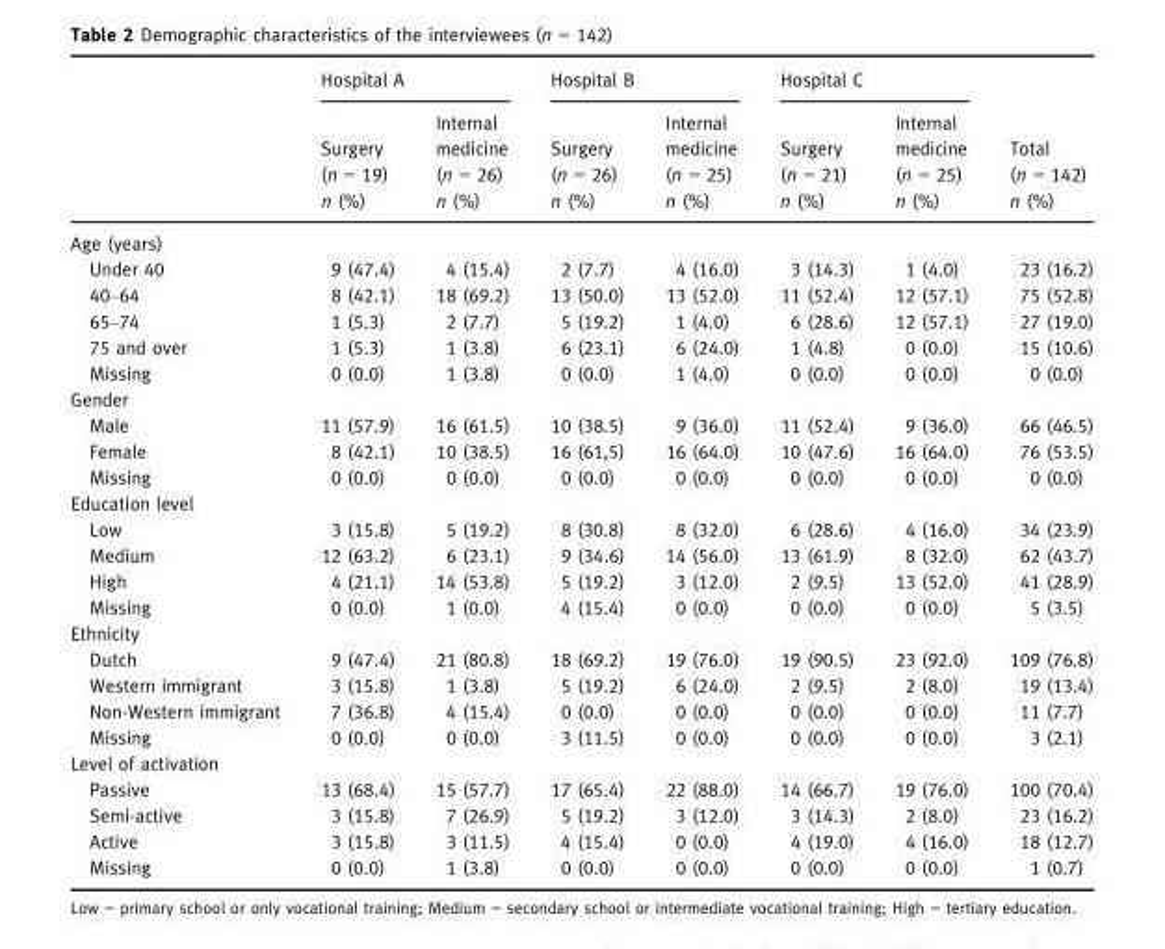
<table><thead><tr><td rowspan="3"></td><td colspan="2">Hospital A</td><td colspan="2">Hospital B</td><td colspan="2">Hospital C</td><td rowspan="3">Total (n = 142) n (%)</td></tr><tr><td rowspan="2">Surgery (n = 19) n (%)</td><td rowspan="2">Internal medicine (n = 26) n (%)</td><td rowspan="2">Surgery (n = 26) n (%)</td><td rowspan="2">Internal medicine (n = 25) n (%)</td><td rowspan="2">Surgery (n = 21) n (%)</td><td rowspan="2">Internal medicine (n = 25) n (%)</td></tr><tr></tr></thead><tbody><tr><td colspan="8">Age (years)</td></tr><tr><td>Under 40</td><td>9 (47.4)</td><td>4 (15.4)</td><td>2 (7.7)</td><td>4 (16.0)</td><td>3 (14.3)</td><td>1 (4.0)</td><td>23 (16.2)</td></tr><tr><td>40–64</td><td>8 (42.1)</td><td>18 (69.2)</td><td>13 (50.0)</td><td>13 (52.0)</td><td>11 (52.4)</td><td>12 (57.1)</td><td>75 (52.8)</td></tr><tr><td>65–74</td><td>1 (5.3)</td><td>2 (7.7)</td><td>5 (19.2)</td><td>1 (4.0)</td><td>6 (28.6)</td><td>12 (57.1)</td><td>27 (19.0)</td></tr><tr><td>75 and over</td><td>1 (5.3)</td><td>1 (3.8)</td><td>6 (23.1)</td><td>6 (24.0)</td><td>1 (4.8)</td><td>0 (0.0)</td><td>15 (10.6)</td></tr><tr><td>Missing</td><td>0 (0.0)</td><td>1 (3.8)</td><td>0 (0.0)</td><td>1 (4.0)</td><td>0 (0.0)</td><td>0 (0.0)</td><td>0 (0.0)</td></tr><tr><td colspan="8">Gender</td></tr><tr><td>Male</td><td>11 (57.9)</td><td>16 (61.5)</td><td>10 (38.5)</td><td>9 (36.0)</td><td>11 (52.4)</td><td>9 (36.0)</td><td>66 (46.5)</td></tr><tr><td>Female</td><td>8 (42.1)</td><td>10 (38.5)</td><td>16 (61,5)</td><td>16 (64.0)</td><td>10 (47.6)</td><td>16 (64.0)</td><td>76 (53.5)</td></tr><tr><td>Missing</td><td>0 (0.0)</td><td>0 (0.0)</td><td>0 (0.0)</td><td>0 (0.0)</td><td>0 (0.0)</td><td>0 (0.0)</td><td>0 (0.0)</td></tr><tr><td colspan="8">Education level</td></tr><tr><td>Low</td><td>3 (15.8)</td><td>5 (19.2)</td><td>8 (30.8)</td><td>8 (32.0)</td><td>6 (28.6)</td><td>4 (16.0)</td><td>34 (23.9)</td></tr><tr><td>Medium</td><td>12 (63.2)</td><td>6 (23.1)</td><td>9 (34.6)</td><td>14 (56.0)</td><td>13 (61.9)</td><td>8 (32.0)</td><td>62 (43.7)</td></tr><tr><td>High</td><td>4 (21.1)</td><td>14 (53.8)</td><td>5 (19.2)</td><td>3 (12.0)</td><td>2 (9.5)</td><td>13 (52.0)</td><td>41 (28.9)</td></tr><tr><td>Missing</td><td>0 (0.0)</td><td>1 (0.0)</td><td>4 (15.4)</td><td>0 (0.0)</td><td>0 (0.0)</td><td>0 (0.0)</td><td>5 (3.5)</td></tr><tr><td colspan="8">Ethnicity</td></tr><tr><td>Dutch</td><td>9 (47.4)</td><td>21 (80.8)</td><td>18 (69.2)</td><td>19 (76.0)</td><td>19 (90.5)</td><td>23 (92.0)</td><td>109 (76.8)</td></tr><tr><td>Western immigrant</td><td>3 (15.8)</td><td>1 (3.8)</td><td>5 (19.2)</td><td>6 (24.0)</td><td>2 (9.5)</td><td>2 (8.0)</td><td>19 (13.4)</td></tr><tr><td>Non-Western immigrant</td><td>7 (36.8)</td><td>4 (15.4)</td><td>0 (0.0)</td><td>0 (0.0)</td><td>0 (0.0)</td><td>0 (0.0)</td><td>11 (7.7)</td></tr><tr><td>Missing</td><td>0 (0.0)</td><td>0 (0.0)</td><td>3 (11.5)</td><td>0 (0.0)</td><td>0 (0.0)</td><td>0 (0.0)</td><td>3 (2.1)</td></tr><tr><td colspan="8">Level of activation</td></tr><tr><td>Passive</td><td>13 (68.4)</td><td>15 (57.7)</td><td>17 (65.4)</td><td>22 (88.0)</td><td>14 (66.7)</td><td>19 (76.0)</td><td>100 (70.4)</td></tr><tr><td>Semi-active</td><td>3 (15.8)</td><td>7 (26.9)</td><td>5 (19.2)</td><td>3 (12.0)</td><td>3 (14.3)</td><td>2 (8.0)</td><td>23 (16.2)</td></tr><tr><td>Active</td><td>3 (15.8)</td><td>3 (11.5)</td><td>4 (15.4)</td><td>0 (0.0)</td><td>4 (19.0)</td><td>4 (16.0)</td><td>18 (12.7)</td></tr><tr><td>Missing</td><td>0 (0.0)</td><td>1 (3.8)</td><td>0 (0.0)</td><td>0 (0.0)</td><td>0 (0.0)</td><td>0 (0.0)</td><td>1 (0.7)</td></tr></tbody></table>